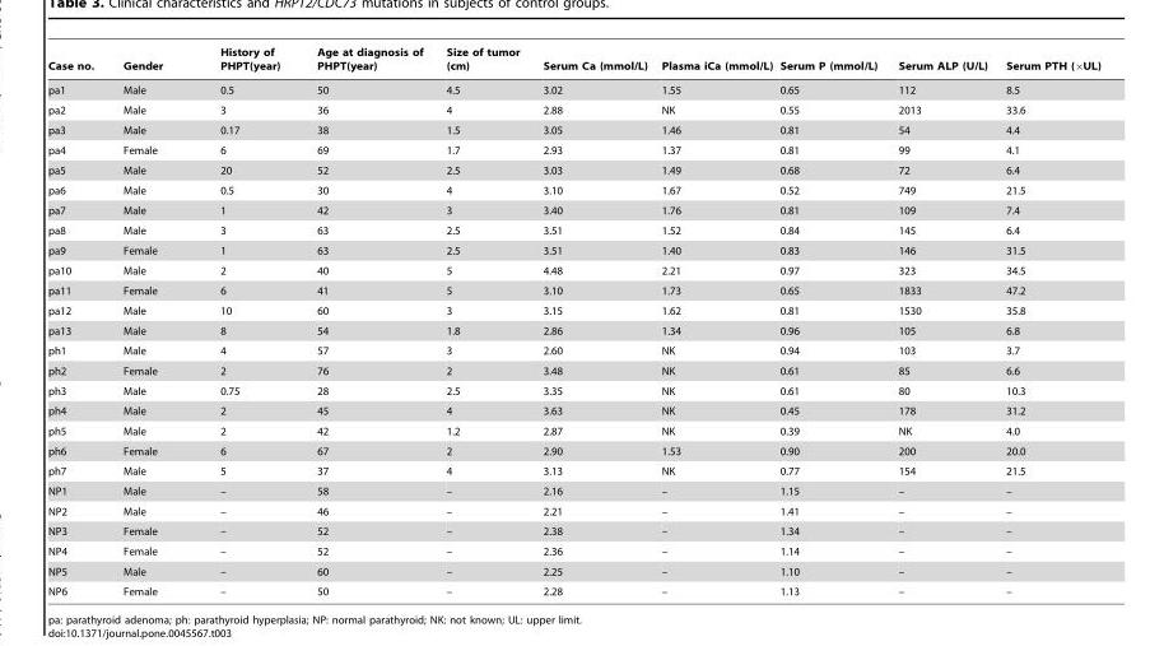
<table><thead><tr><td>Case no.</td><td>Gender</td><td>History of PHPT(year)</td><td>Age at diagnosis of PHPT(year)</td><td>Size of tumor (cm)</td><td>Serum Ca (mmol/L)</td><td>Plasma iCa (mmol/L)</td><td>Serum P (mmol/L)</td><td>Serum ALP (U/L)</td><td>Serum PTH (×UL)</td></tr></thead><tbody><tr><td>pa1</td><td>Male</td><td>0.5</td><td>50</td><td>4.5</td><td>3.02</td><td>1.55</td><td>0.65</td><td>112</td><td>8.5</td></tr><tr><td>pa2</td><td>Male</td><td>3</td><td>36</td><td>4</td><td>2.88</td><td>NK</td><td>0.55</td><td>2013</td><td>33.6</td></tr><tr><td>pa3</td><td>Male</td><td>0.17</td><td>38</td><td>1.5</td><td>3.05</td><td>1.46</td><td>0.81</td><td>54</td><td>4.4</td></tr><tr><td>pa4</td><td>Female</td><td>6</td><td>69</td><td>1.7</td><td>2.93</td><td>1.37</td><td>0.81</td><td>99</td><td>4.1</td></tr><tr><td>pa5</td><td>Male</td><td>20</td><td>52</td><td>2.5</td><td>3.03</td><td>1.49</td><td>0.68</td><td>72</td><td>6.4</td></tr><tr><td>pa6</td><td>Male</td><td>0.5</td><td>30</td><td>4</td><td>3.10</td><td>1.67</td><td>0.52</td><td>749</td><td>21.5</td></tr><tr><td>pa7</td><td>Male</td><td>1</td><td>42</td><td>3</td><td>3.40</td><td>1.76</td><td>0.81</td><td>109</td><td>7.4</td></tr><tr><td>pa8</td><td>Male</td><td>3</td><td>63</td><td>2.5</td><td>3.51</td><td>1.52</td><td>0.84</td><td>145</td><td>6.4</td></tr><tr><td>pa9</td><td>Female</td><td>1</td><td>63</td><td>2.5</td><td>3.51</td><td>1.40</td><td>0.83</td><td>146</td><td>31.5</td></tr><tr><td>pa10</td><td>Male</td><td>2</td><td>40</td><td>5</td><td>4.48</td><td>2.21</td><td>0.97</td><td>323</td><td>34.5</td></tr><tr><td>pa11</td><td>Female</td><td>6</td><td>41</td><td>5</td><td>3.10</td><td>1.73</td><td>0.65</td><td>1833</td><td>47.2</td></tr><tr><td>pa12</td><td>Male</td><td>10</td><td>60</td><td>3</td><td>3.15</td><td>1.62</td><td>0.81</td><td>1530</td><td>35.8</td></tr><tr><td>pa13</td><td>Male</td><td>8</td><td>54</td><td>1.8</td><td>2.86</td><td>1.34</td><td>0.96</td><td>105</td><td>6.8</td></tr><tr><td>ph1</td><td>Male</td><td>4</td><td>57</td><td>3</td><td>2.60</td><td>NK</td><td>0.94</td><td>103</td><td>3.7</td></tr><tr><td>ph2</td><td>Female</td><td>2</td><td>76</td><td>2</td><td>3.48</td><td>NK</td><td>0.61</td><td>85</td><td>6.6</td></tr><tr><td>ph3</td><td>Male</td><td>0.75</td><td>28</td><td>2.5</td><td>3.35</td><td>NK</td><td>0.61</td><td>80</td><td>10.3</td></tr><tr><td>ph4</td><td>Male</td><td>2</td><td>45</td><td>4</td><td>3.63</td><td>NK</td><td>0.45</td><td>178</td><td>31.2</td></tr><tr><td>ph5</td><td>Male</td><td>2</td><td>42</td><td>1.2</td><td>2.87</td><td>NK</td><td>0.39</td><td>NK</td><td>4.0</td></tr><tr><td>ph6</td><td>Female</td><td>6</td><td>67</td><td>2</td><td>2.90</td><td>1.53</td><td>0.90</td><td>200</td><td>20.0</td></tr><tr><td>ph7</td><td>Male</td><td>5</td><td>37</td><td>4</td><td>3.13</td><td>NK</td><td>0.77</td><td>154</td><td>21.5</td></tr><tr><td>NP1</td><td>Male</td><td>–</td><td>58</td><td>–</td><td>2.16</td><td>–</td><td>1.15</td><td>–</td><td>–</td></tr><tr><td>NP2</td><td>Male</td><td>–</td><td>46</td><td>–</td><td>2.21</td><td>–</td><td>1.41</td><td>–</td><td>–</td></tr><tr><td>NP3</td><td>Female</td><td>–</td><td>52</td><td>–</td><td>2.38</td><td>–</td><td>1.34</td><td>–</td><td>–</td></tr><tr><td>NP4</td><td>Female</td><td>–</td><td>52</td><td>–</td><td>2.36</td><td>–</td><td>1.14</td><td>–</td><td>–</td></tr><tr><td>NP5</td><td>Male</td><td>–</td><td>60</td><td>–</td><td>2.25</td><td>–</td><td>1.10</td><td>–</td><td>–</td></tr><tr><td>NP6</td><td>Female</td><td>–</td><td>50</td><td>–</td><td>2.28</td><td>–</td><td>1.13</td><td>–</td><td>–</td></tr></tbody></table>